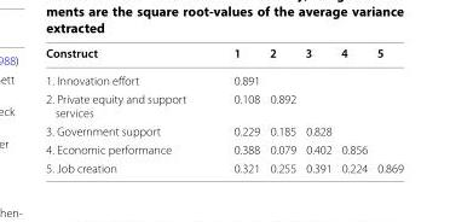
<table><thead><tr><td>Construct</td><td>1</td><td>2</td><td>3</td><td>4</td><td>5</td></tr></thead><tbody><tr><td>1. Innovation effort</td><td>0.891</td><td></td><td></td><td></td><td></td></tr><tr><td>2. Private equity and support services</td><td>0.108</td><td>0.892</td><td></td><td></td><td></td></tr><tr><td>3. Government support</td><td>0.229</td><td>0.185</td><td>0.828</td><td></td><td></td></tr><tr><td>4. Economic performance</td><td>0.388</td><td>0.079</td><td>0.402</td><td>0.856</td><td></td></tr><tr><td>5. Job creation</td><td>0.321</td><td>0.255</td><td>0.391</td><td>0.224</td><td>0.869</td></tr></tbody></table>